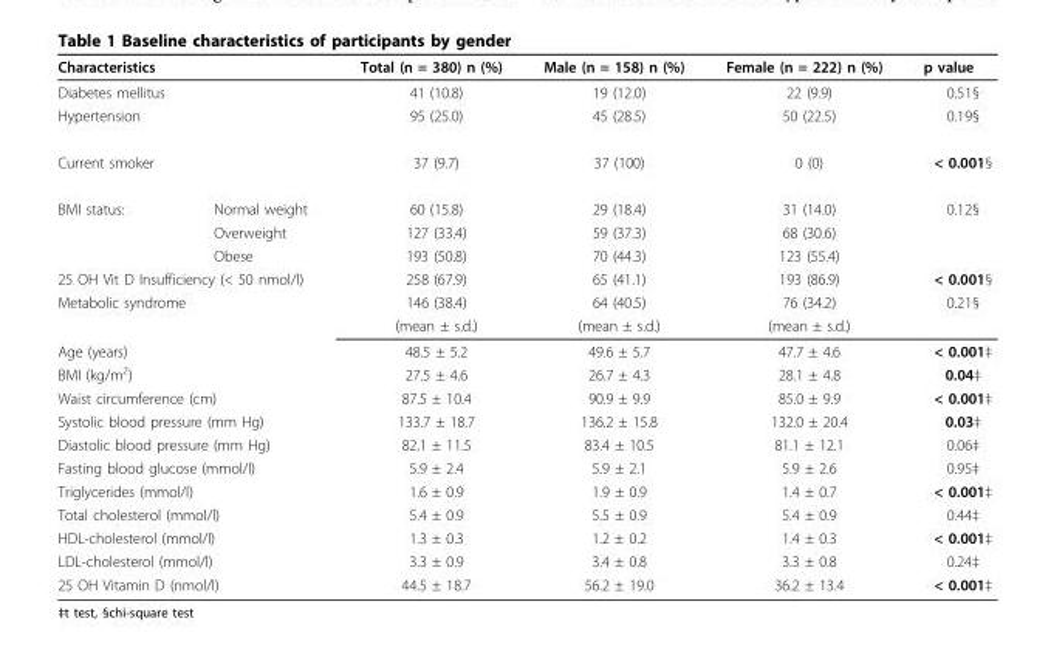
<table><thead><tr><td rowspan="2" colspan="2">Characteristics Diabetes mellitus</td><td rowspan="3">Total (n = 380) n (%) 41 (10.8) 95 (25.0)</td><td rowspan="3">Male (n = 158) n (%) 19 (12.0) 45 (28.5)</td><td rowspan="3">Female (n = 222) n (%) 22 (9.9) 50 (22.5)</td><td rowspan="3">p value 0.51§ 0.19§</td></tr><tr></tr><tr><td>Hypertension</td><td></td></tr></thead><tbody><tr><td>Current smoker</td><td></td><td>37 (9.7)</td><td>37 (100)</td><td>0 (0)</td><td>&lt; 0.001§</td></tr><tr><td rowspan="3">BMI status:</td><td>Normal weight</td><td>60 (15.8)</td><td>29 (18.4)</td><td>31 (14.0)</td><td>0.12§</td></tr><tr><td>Overweight</td><td>127 (33.4)</td><td>59 (37.3)</td><td>68 (30.6)</td><td></td></tr><tr><td>Obese</td><td>193 (50.8)</td><td>70 (44.3)</td><td>123 (55.4)</td><td></td></tr><tr><td colspan="2">25 OH Vit D Insufficiency (&lt; 50 nmol/l)</td><td>258 (67.9)</td><td>65 (41.1)</td><td>193 (86.9)</td><td>&lt; 0.001§</td></tr><tr><td rowspan="2">Metabolic syndrome</td><td></td><td>146 (38.4)</td><td>64 (40.5)</td><td>76 (34.2)</td><td>0.21§</td></tr><tr><td></td><td>(mean ± s.d.)</td><td>(mean ± s.d.)</td><td>(mean ± s.d.)</td><td></td></tr><tr><td colspan="2">Age (years)</td><td>48.5 ± 5.2</td><td>49.6 ± 5.7</td><td>47.7 ± 4.6</td><td>&lt; 0.001‡</td></tr><tr><td colspan="2">BMI (kg/m<sup>2</sup>)</td><td>27.5 ± 4.6</td><td>26.7 ± 4.3</td><td>28.1 ± 4.8</td><td>0.04‡</td></tr><tr><td colspan="2">Waist circumference (cm)</td><td>87.5 ± 10.4</td><td>90.9 ± 9.9</td><td>85.0 ± 9.9</td><td>&lt; 0.001‡</td></tr><tr><td colspan="2">Systolic blood pressure (mm Hg)</td><td>133.7 ± 18.7</td><td>136.2 ± 15.8</td><td>132.0 ± 20.4</td><td>0.03‡</td></tr><tr><td colspan="2">Diastolic blood pressure (mm Hg)</td><td>82.1 ± 11.5</td><td>83.4 ± 10.5</td><td>81.1 ± 12.1</td><td>0.06‡</td></tr><tr><td colspan="2">Fasting blood glucose (mmol/l)</td><td>5.9 ± 2.4</td><td>5.9 ± 2.1</td><td>5.9 ± 2.6</td><td>0.95‡</td></tr><tr><td colspan="2">Triglycerides (mmol/l)</td><td>1.6 ± 0.9</td><td>1.9 ± 0.9</td><td>1.4 ± 0.7</td><td>&lt; 0.001‡</td></tr><tr><td colspan="2">Total cholesterol (mmol/l)</td><td>5.4 ± 0.9</td><td>5.5 ± 0.9</td><td>5.4 ± 0.9</td><td>0.44‡</td></tr><tr><td colspan="2">HDL-cholesterol (mmol/l)</td><td>1.3 ± 0.3</td><td>1.2 ± 0.2</td><td>1.4 ± 0.3</td><td>&lt; 0.001‡</td></tr><tr><td colspan="2">LDL-cholesterol (mmol/l)</td><td>3.3 ± 0.9</td><td>3.4 ± 0.8</td><td>3.3 ± 0.8</td><td>0.24‡</td></tr><tr><td colspan="2">25 OH Vitamin D (nmol/l)</td><td>44.5 ± 18.7</td><td>56.2 ± 19.0</td><td>36.2 ± 13.4</td><td>&lt; 0.001‡</td></tr></tbody></table>